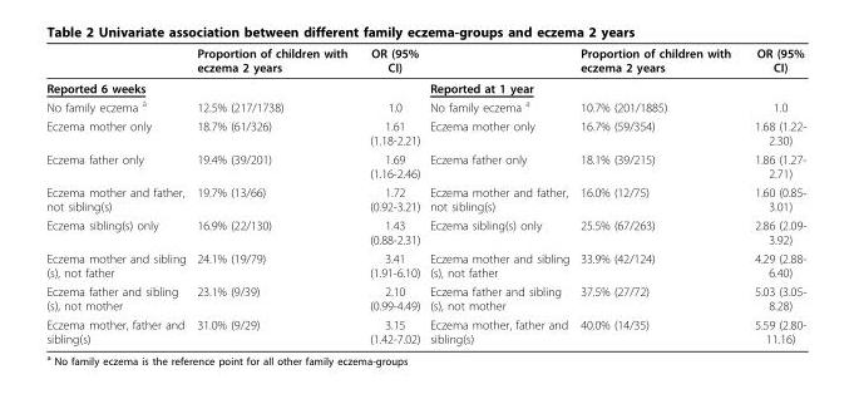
<table><thead><tr><td></td><td>Proportion of children with eczema 2 years</td><td>OR (95% CI)</td><td></td><td>Proportion of children with eczema 2 years</td><td>OR (95% CI)</td></tr></thead><tbody><tr><td>Reported 6 weeks</td><td></td><td></td><td>Reported at 1 year</td><td></td><td></td></tr><tr><td>No family eczema <sup>a</sup></td><td>12.5% (217/1738)</td><td>1.0</td><td>No family eczema <sup>a</sup></td><td>10.7% (201/1885)</td><td>1.0</td></tr><tr><td>Eczema mother only</td><td>18.7% (61/326)</td><td>1.61 (1.18-2.21)</td><td>Eczema mother only</td><td>16.7% (59/354)</td><td>1.68 (1.22- 2.30)</td></tr><tr><td>Eczema father only</td><td>19.4% (39/201)</td><td>1.69 (1.16-2.46)</td><td>Eczema father only</td><td>18.1% (39/215)</td><td>1.86 (1.27- 2.71)</td></tr><tr><td>Eczema mother and father, not sibling(s)</td><td>19.7% (13/66)</td><td>1.72 (0.92-3.21)</td><td>Eczema mother and father, not sibling(s)</td><td>16.0% (12/75)</td><td>1.60 (0.85- 3.01)</td></tr><tr><td>Eczema sibling(s) only</td><td>16.9% (22/130)</td><td>1.43 (0.88-2.31)</td><td>Eczema sibling(s) only</td><td>25.5% (67/263)</td><td>2.86 (2.09- 3.92)</td></tr><tr><td>Eczema mother and sibling (s), not father</td><td>24.1% (19/79)</td><td>3.41 (1.91-6.10)</td><td>Eczema mother and sibling (s), not father</td><td>33.9% (42/124)</td><td>4.29 (2.88- 6.40)</td></tr><tr><td>Eczema father and sibling (s), not mother</td><td>23.1% (9/39)</td><td>2.10 (0.99-4.49)</td><td>Eczema father and sibling (s), not mother</td><td>37.5% (27/72)</td><td>5.03 (3.05- 8.28)</td></tr><tr><td>Eczema mother, father and sibling(s)</td><td>31.0% (9/29)</td><td>3.15 (1.42-7.02)</td><td>Eczema mother, father and sibling(s)</td><td>40.0% (14/35)</td><td>5.59 (2.80- 11.16)</td></tr></tbody></table>